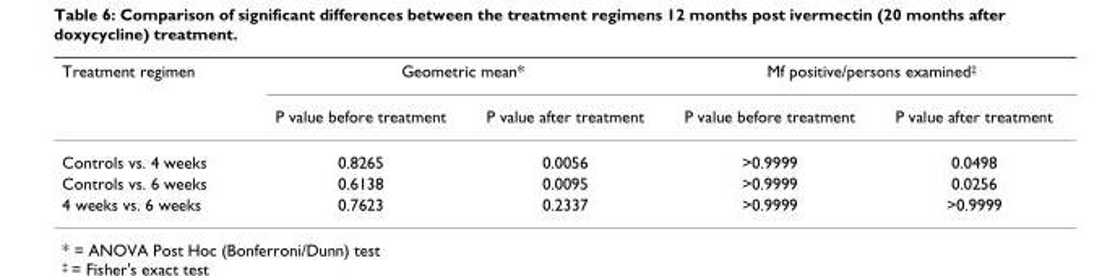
<table><thead><tr><td rowspan="2">Treatment regimen</td><td colspan="2">Geometric mean*</td><td colspan="2">Mf positive/persons examined<sup>‡</sup></td></tr><tr><td>P value before treatment</td><td>P value after treatment</td><td>P value before treatment</td><td>P value after treatment</td></tr></thead><tbody><tr><td>Controls vs. 4 weeks</td><td>0.8265</td><td>0.0056</td><td>&gt;0.9999</td><td>0.0498</td></tr><tr><td>Controls vs. 6 weeks</td><td>0.6138</td><td>0.0095</td><td>&gt;0.9999</td><td>0.0256</td></tr><tr><td>4 weeks vs. 6 weeks</td><td>0.7623</td><td>0.2337</td><td>&gt;0.9999</td><td>&gt;0.9999</td></tr></tbody></table>